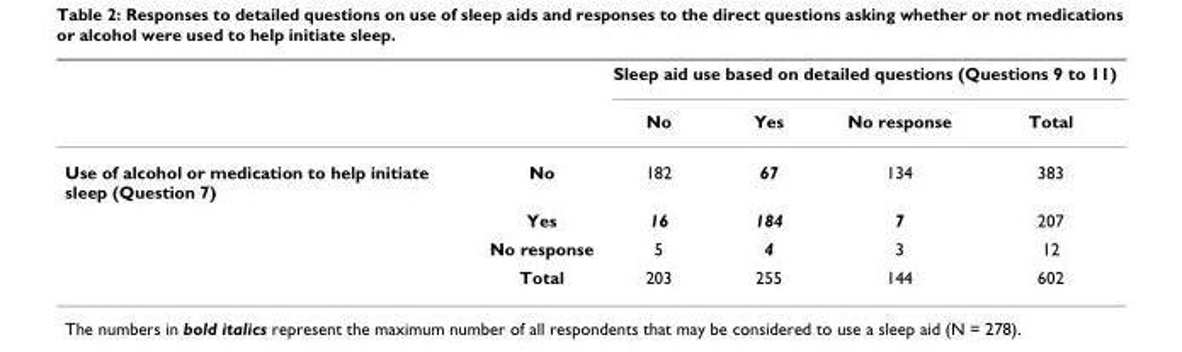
<table><thead><tr><td rowspan="2"></td><td rowspan="2"></td><td colspan="4">Sleep aid use based on detailed questions (Questions 9 to 11)</td></tr><tr><td>No</td><td>Yes</td><td>No response</td><td>Total</td></tr></thead><tbody><tr><td rowspan="4">Use of alcohol or medication to help initiate sleep (Question 7)</td><td>No</td><td>182</td><td>67</td><td>134</td><td>383</td></tr><tr><td>Yes</td><td>16</td><td>184</td><td>7</td><td>207</td></tr><tr><td>No response</td><td>5</td><td>4</td><td>3</td><td>12</td></tr><tr><td>Total</td><td>203</td><td>255</td><td>144</td><td>602</td></tr></tbody></table>